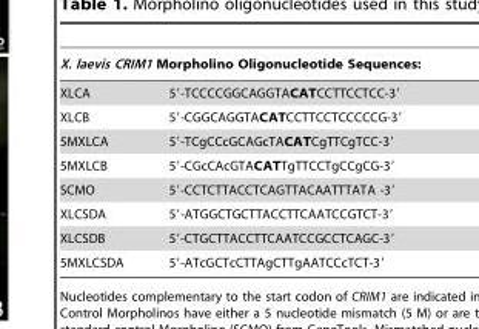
<table><thead><tr><td colspan="2">X. laevis CRIM1 Morpholino Oligonucleotide Sequences:</td></tr><tr><td>XLCA</td><td>5′-TCCCCGGCAGGTACATCCTTCCTCC-3′</td></tr></thead><tbody><tr><td>XLCB</td><td>5′-CGGCAGGTACATCCTTCCTCCCCCG-3′</td></tr><tr><td>5MXLCA</td><td>5′-TCgCCcGCAGcTACATCgTTCgTCC-3′</td></tr><tr><td>5MXLCB</td><td>5′-CGcCAcGTACATTgTTCCTgCCgCG-3′</td></tr><tr><td>SCMO</td><td>5′-CCTCTTACCTCAGTTACAATTTATA -3′</td></tr><tr><td>XLCSDA</td><td>5′-ATGGCTGCTTACCTTCAATCCGTCT-3′</td></tr><tr><td>XLCSDB</td><td>5′-CTGCTTACCTTCAATCCGCCTCAGC-3′</td></tr><tr><td>5MXLCSDA</td><td>5′-ATcGCTcCTTAgCTTgAATCCcTCT-3′</td></tr></tbody></table>